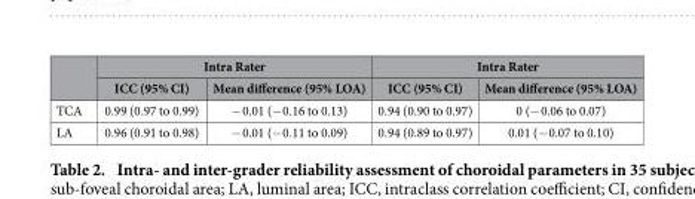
<table><thead><tr><td rowspan="2"></td><td colspan="2">Intra Rater</td><td colspan="2">Intra Rater</td></tr><tr><td>ICC (95% CI)</td><td>Mean difference (95% LOA)</td><td>ICC (95% CI)</td><td>Mean difference (95% LOA)</td></tr></thead><tbody><tr><td>TCA</td><td>0.99 (0.97 to 0.99)</td><td>− 0.01 (− 0.16 to 0.13)</td><td>0.94 (0.90 to 0.97)</td><td>0 (− 0.06 to 0.07)</td></tr><tr><td>LA</td><td>0.96 (0.91 to 0.98)</td><td>− 0.01 (− 0.11 to 0.09)</td><td>0.94 (0.89 to 0.97)</td><td>0.01 (− 0.07 to 0.10)</td></tr></tbody></table>